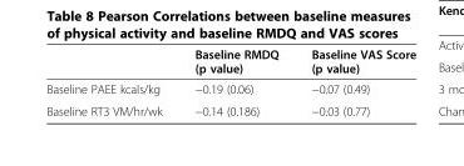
<table><thead><tr><td></td><td>Baseline RMDQ (p value)</td><td>Baseline VAS Score (p value)</td></tr></thead><tbody><tr><td>Baseline PAEE kcals/kg</td><td>−0.19 (0.06)</td><td>−0.07 (0.49)</td></tr><tr><td>Baseline RT3 VM/hr/wk</td><td>−0.14 (0.186)</td><td>−0.03 (0.77)</td></tr></tbody></table>